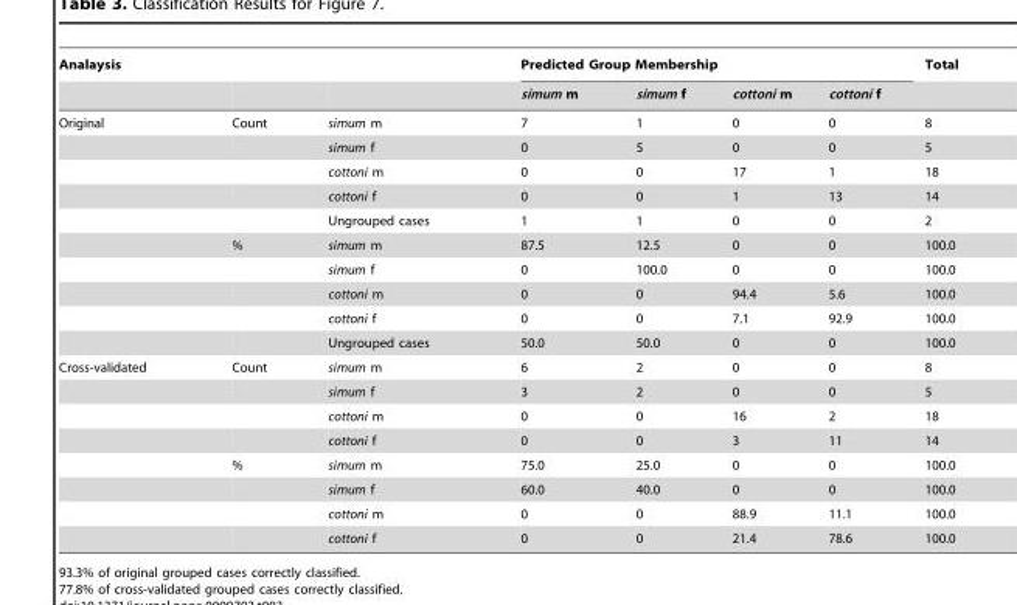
<table><thead><tr><td rowspan="2">Analaysis</td><td rowspan="2"></td><td rowspan="2"></td><td colspan="4">Predicted Group Membership</td><td rowspan="2">Total</td></tr><tr><td>simum m</td><td>simum f</td><td>cottoni m</td><td>cottoni f</td></tr></thead><tbody><tr><td rowspan="10">Original</td><td>Count</td><td>simum m</td><td>7</td><td>1</td><td>0</td><td>0</td><td>8</td></tr><tr><td></td><td>simum f</td><td>0</td><td>5</td><td>0</td><td>0</td><td>5</td></tr><tr><td></td><td>cottoni m</td><td>0</td><td>0</td><td>17</td><td>1</td><td>18</td></tr><tr><td></td><td>cottoni f</td><td>0</td><td>0</td><td>1</td><td>13</td><td>14</td></tr><tr><td></td><td>Ungrouped cases</td><td>1</td><td>1</td><td>0</td><td>0</td><td>2</td></tr><tr><td>%</td><td>simum m</td><td>87.5</td><td>12.5</td><td>0</td><td>0</td><td>100.0</td></tr><tr><td></td><td>simum f</td><td>0</td><td>100.0</td><td>0</td><td>0</td><td>100.0</td></tr><tr><td></td><td>cottoni m</td><td>0</td><td>0</td><td>94.4</td><td>5.6</td><td>100.0</td></tr><tr><td></td><td>cottoni f</td><td>0</td><td>0</td><td>7.1</td><td>92.9</td><td>100.0</td></tr><tr><td></td><td>Ungrouped cases</td><td>50.0</td><td>50.0</td><td>0</td><td>0</td><td>100.0</td></tr><tr><td rowspan="8">Cross-validated</td><td>Count</td><td>simum m</td><td>6</td><td>2</td><td>0</td><td>0</td><td>8</td></tr><tr><td></td><td>simum f</td><td>3</td><td>2</td><td>0</td><td>0</td><td>5</td></tr><tr><td></td><td>cottoni m</td><td>0</td><td>0</td><td>16</td><td>2</td><td>18</td></tr><tr><td></td><td>cottoni f</td><td>0</td><td>0</td><td>3</td><td>11</td><td>14</td></tr><tr><td>%</td><td>simum m</td><td>75.0</td><td>25.0</td><td>0</td><td>0</td><td>100.0</td></tr><tr><td></td><td>simum f</td><td>60.0</td><td>40.0</td><td>0</td><td>0</td><td>100.0</td></tr><tr><td></td><td>cottoni m</td><td>0</td><td>0</td><td>88.9</td><td>11.1</td><td>100.0</td></tr><tr><td></td><td>cottoni f</td><td>0</td><td>0</td><td>21.4</td><td>78.6</td><td>100.0</td></tr></tbody></table>